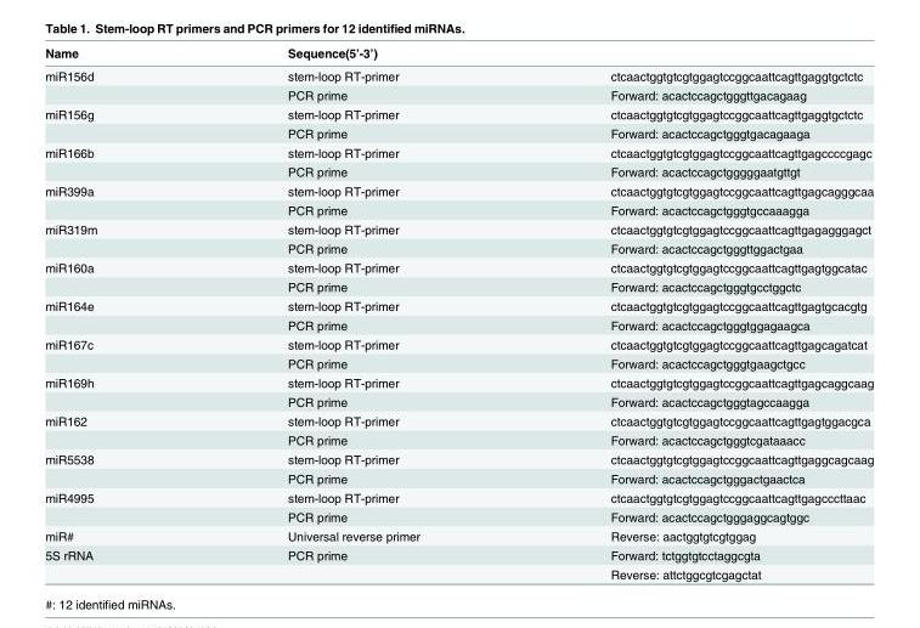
<table><thead><tr><td rowspan="2">Name miR156d</td><td colspan="2">Sequence(5’-3’)</td></tr><tr><td>stem-loop RT-primer</td><td>ctcaactggtgtcgtggagtccggcaattcagttgaggtgctctc</td></tr></thead><tbody><tr><td></td><td>PCR prime</td><td>Forward: acactccagctgggttgacagaag</td></tr><tr><td rowspan="2">miR156g</td><td>stem-loop RT-primer</td><td>ctcaactggtgtcgtggagtccggcaattcagttgaggtgctctc</td></tr><tr><td>PCR prime</td><td>Forward: acactccagctgggtgacagaaga</td></tr><tr><td rowspan="2">miR166b</td><td>stem-loop RT-primer</td><td>ctcaactggtgtcgtggagtccggcaattcagttgagccccgagc</td></tr><tr><td>PCR prime</td><td>Forward: acactccagctgggggaatgttgt</td></tr><tr><td rowspan="2">miR399a</td><td>stem-loop RT-primer</td><td>ctcaactggtgtcgtggagtccggcaattcagttgagcagggcaa</td></tr><tr><td>PCR prime</td><td>Forward: acactccagctgggtgccaaagga</td></tr><tr><td rowspan="2">miR319m</td><td>stem-loop RT-primer</td><td>ctcaactggtgtcgtggagtccggcaattcagttgagagggagct</td></tr><tr><td>PCR prime</td><td>Forward: acactccagctgggttggactgaa</td></tr><tr><td rowspan="2">miR160a</td><td>stem-loop RT-primer</td><td>ctcaactggtgtcgtggagtccggcaattcagttgagtggcatac</td></tr><tr><td>PCR prime</td><td>Forward: acactccagctgggtgcctggctc</td></tr><tr><td rowspan="2">miR164e</td><td>stem-loop RT-primer</td><td>ctcaactggtgtcgtggagtccggcaattcagttgagtgcacgtg</td></tr><tr><td>PCR prime</td><td>Forward: acactccagctgggtggagaagca</td></tr><tr><td rowspan="2">miR167c</td><td>stem-loop RT-primer</td><td>ctcaactggtgtcgtggagtccggcaattcagttgagcagatcat</td></tr><tr><td>PCR prime</td><td>Forward: acactccagctgggtgaagctgcc</td></tr><tr><td rowspan="2">miR169h</td><td>stem-loop RT-primer</td><td>ctcaactggtgtcgtggagtccggcaattcagttgagcaggcaag</td></tr><tr><td>PCR prime</td><td>Forward: acactccagctgggtagccaagga</td></tr><tr><td rowspan="2">miR162</td><td>stem-loop RT-primer</td><td>ctcaactggtgtcgtggagtccggcaattcagttgagtggacgca</td></tr><tr><td>PCR prime</td><td>Forward: acactccagctgggtcgataaacc</td></tr><tr><td rowspan="2">miR5538</td><td>stem-loop RT-primer</td><td>ctcaactggtgtcgtggagtccggcaattcagttgaggcagcaag</td></tr><tr><td>PCR prime</td><td>Forward: acactccagctgggactgaactca</td></tr><tr><td rowspan="2">miR4995</td><td>stem-loop RT-primer</td><td>ctcaactggtgtcgtggagtccggcaattcagttgagcccttaac</td></tr><tr><td>PCR prime</td><td>Forward: acactccagctgggaggcagtggc</td></tr><tr><td>miR#</td><td>Universal reverse primer</td><td>Reverse: aactggtgtcgtggag</td></tr><tr><td rowspan="2">5S rRNA</td><td>PCR prime</td><td>Forward: tctggtgtcctaggcgta</td></tr><tr><td></td><td>Reverse: attctggcgtcgagctat</td></tr></tbody></table>